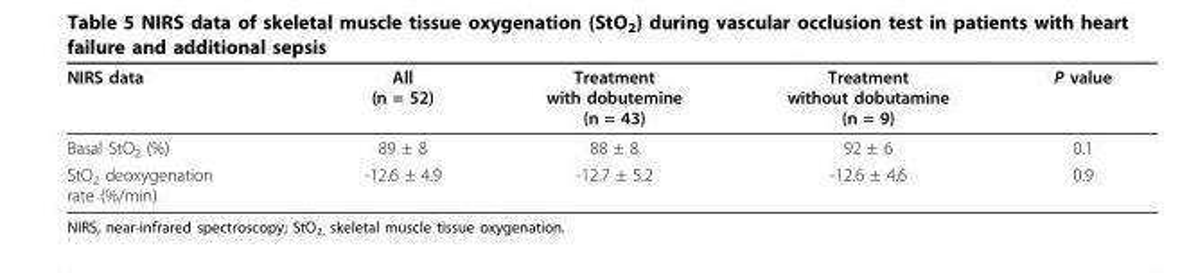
<table><thead><tr><td>NIRS data</td><td>All (n = 52)</td><td>Treatment with dobutemine (n = 43)</td><td>Treatment without dobutamine (n = 9)</td><td>P value</td></tr></thead><tbody><tr><td>Basal StO<sub>2</sub> (%)</td><td>89 ± 8</td><td>88 ± 8</td><td>92 ± 6</td><td>0.1</td></tr><tr><td>StO<sub>2</sub> deoxygenation rate (%/min)</td><td>-12.6 ± 4.9</td><td>-12.7 ± 5.2</td><td>-12.6 ± 4.6</td><td>0.9</td></tr></tbody></table>